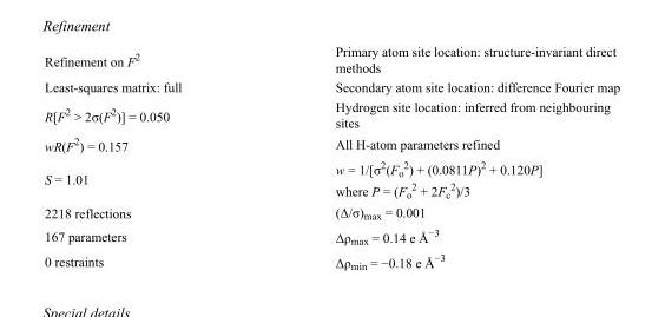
<table><tbody><tr><td>Refinement on F<sup>2</sup></td><td>Primary atom site location: structure-invariant direct methods</td></tr><tr><td>Least-squares matrix: full</td><td>Secondary atom site location: difference Fourier map</td></tr><tr><td>R[F<sup>2</sup> &gt; 2σ(F<sup>2</sup>)] = 0.050</td><td>Hydrogen site location: inferred from neighbouring sites</td></tr><tr><td>wR(F<sup>2</sup>) = 0.157</td><td>All H-atom parameters refined</td></tr><tr><td>S = 1.01</td><td>w = 1/[σ<sup>2</sup>(F<sub>o</sub> <sup>2</sup>) + (0.0811P)<sup>2</sup> + 0.120P] where P = (F<sub>o</sub> <sup>2</sup> + 2F<sub>c</sub> <sup>2</sup>)/3</td></tr><tr><td>2218 reflections</td><td>(Δ/σ)<sub>max</sub> = 0.001</td></tr><tr><td>167 parameters</td><td>Δρ<sub>max</sub> = 0.14 e Å<sup>−3</sup></td></tr><tr><td>0 restraints</td><td>Δρ<sub>min</sub> = −0.18 e Å<sup>−3</sup></td></tr></tbody></table>